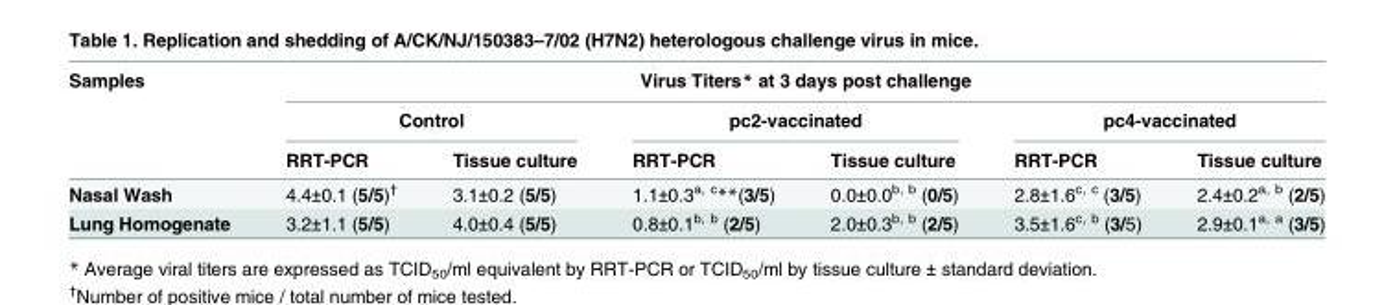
<table><thead><tr><td rowspan="3">Samples</td><td colspan="6">Virus Titers* at 3 days post challenge</td></tr><tr><td colspan="2">Control</td><td colspan="2">pc2-vaccinated</td><td colspan="2">pc4-vaccinated</td></tr><tr><td>RRT-PCR</td><td>Tissue culture</td><td>RRT-PCR</td><td>Tissue culture</td><td>RRT-PCR</td><td>Tissue culture</td></tr></thead><tbody><tr><td>Nasal Wash</td><td>4.4±0.1 (5/5)<sup>†</sup></td><td>3.1±0.2 (5/5)</td><td>1.1±0.3<sup>a, c</sup>**(3/5)</td><td>0.0±0.0<sup>b, b</sup> (0/5)</td><td>2.8±1.6<sup>c, c</sup> (3/5)</td><td>2.4±0.2<sup>a, b</sup> (2/5)</td></tr><tr><td>Lung Homogenate</td><td>3.2±1.1 (5/5)</td><td>4.0±0.4 (5/5)</td><td>0.8±0.1<sup>b, b</sup> (2/5)</td><td>2.0±0.3<sup>b, b</sup> (2/5)</td><td>3.5±1.6<sup>c, b</sup> (3/5)</td><td>2.9±0.1<sup>a, a</sup> (3/5)</td></tr></tbody></table>